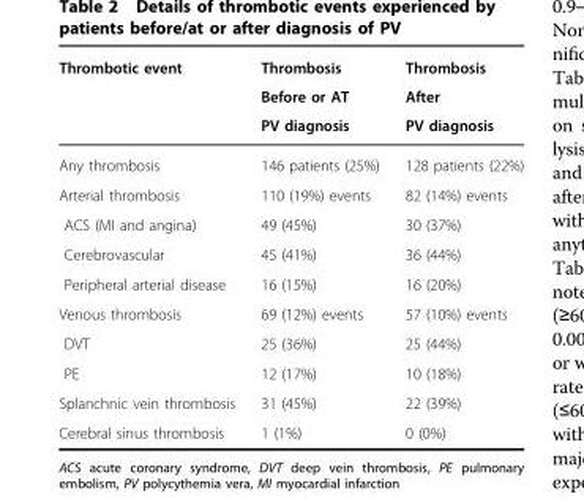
<table><thead><tr><td rowspan="3">Thrombotic event</td><td rowspan="3">Thrombosis Before or AT PV diagnosis</td><td rowspan="3">Thrombosis After PV diagnosis</td></tr><tr></tr><tr></tr></thead><tbody><tr><td>Any thrombosis</td><td>146 patients (25%)</td><td>128 patients (22%)</td></tr><tr><td>Arterial thrombosis</td><td>110 (19%) events</td><td>82 (14%) events</td></tr><tr><td>ACS (MI and angina)</td><td>49 (45%)</td><td>30 (37%)</td></tr><tr><td>Cerebrovascular</td><td>45 (41%)</td><td>36 (44%)</td></tr><tr><td>Peripheral arterial disease</td><td>16 (15%)</td><td>16 (20%)</td></tr><tr><td>Venous thrombosis</td><td>69 (12%) events</td><td>57 (10%) events</td></tr><tr><td>DVT</td><td>25 (36%)</td><td>25 (44%)</td></tr><tr><td>PE</td><td>12 (17%)</td><td>10 (18%)</td></tr><tr><td>Splanchnic vein thrombosis</td><td>31 (45%)</td><td>22 (39%)</td></tr><tr><td>Cerebral sinus thrombosis</td><td>1 (1%)</td><td>0 (0%)</td></tr></tbody></table>